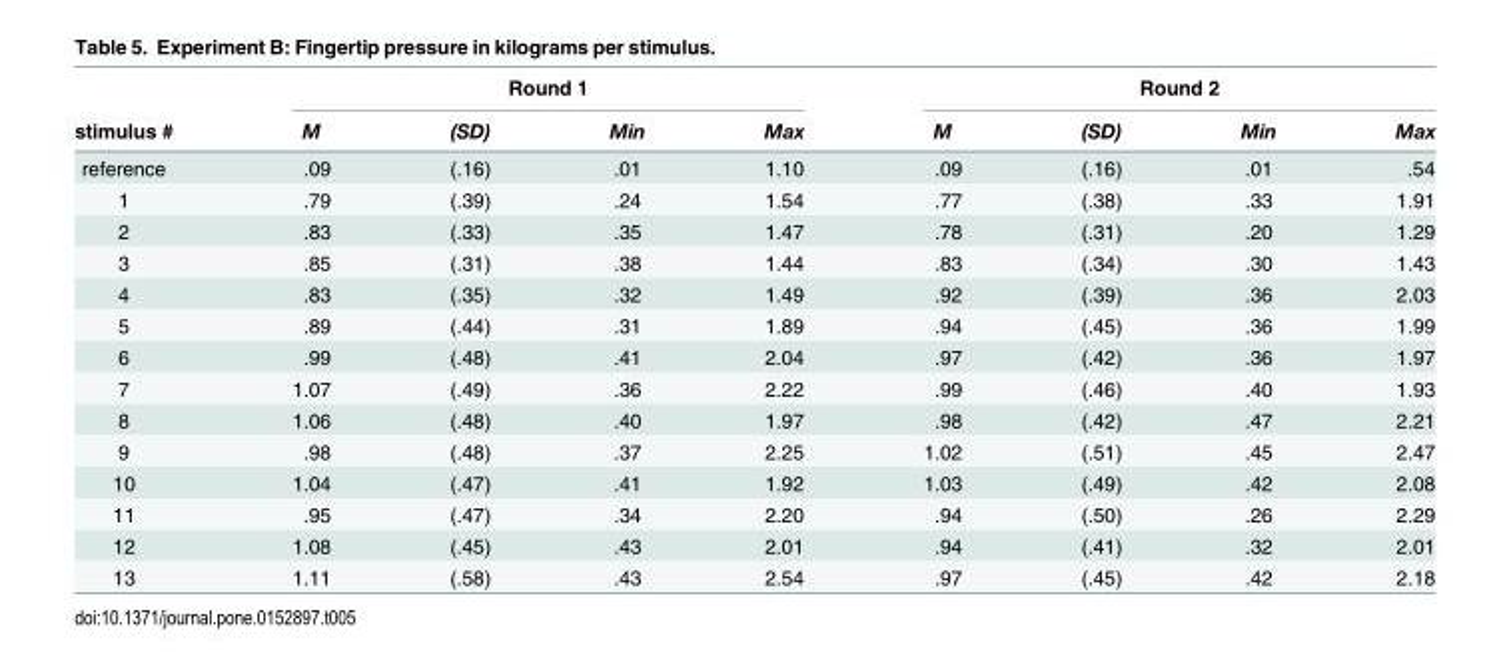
<table><thead><tr><td rowspan="2">stimulus #</td><td colspan="4">Round 1</td><td colspan="4">Round 2</td></tr><tr><td>M</td><td>(SD)</td><td>Min</td><td>Max</td><td>M</td><td>(SD)</td><td>Min</td><td>Max</td></tr></thead><tbody><tr><td>reference</td><td>.09</td><td>(.16)</td><td>.01</td><td>1.10</td><td>.09</td><td>(.16)</td><td>.01</td><td>.54</td></tr><tr><td>1</td><td>.79</td><td>(.39)</td><td>.24</td><td>1.54</td><td>.77</td><td>(.38)</td><td>.33</td><td>1.91</td></tr><tr><td>2</td><td>.83</td><td>(.33)</td><td>.35</td><td>1.47</td><td>.78</td><td>(.31)</td><td>.20</td><td>1.29</td></tr><tr><td>3</td><td>.85</td><td>(.31)</td><td>.38</td><td>1.44</td><td>.83</td><td>(.34)</td><td>.30</td><td>1.43</td></tr><tr><td>4</td><td>.83</td><td>(.35)</td><td>.32</td><td>1.49</td><td>.92</td><td>(.39)</td><td>.36</td><td>2.03</td></tr><tr><td>5</td><td>.89</td><td>(.44)</td><td>.31</td><td>1.89</td><td>.94</td><td>(.45)</td><td>.36</td><td>1.99</td></tr><tr><td>6</td><td>.99</td><td>(.48)</td><td>.41</td><td>2.04</td><td>.97</td><td>(.42)</td><td>.36</td><td>1.97</td></tr><tr><td>7</td><td>1.07</td><td>(.49)</td><td>.36</td><td>2.22</td><td>.99</td><td>(.46)</td><td>.40</td><td>1.93</td></tr><tr><td>8</td><td>1.06</td><td>(.48)</td><td>.40</td><td>1.97</td><td>.98</td><td>(.42)</td><td>.47</td><td>2.21</td></tr><tr><td>9</td><td>.98</td><td>(.48)</td><td>.37</td><td>2.25</td><td>1.02</td><td>(.51)</td><td>.45</td><td>2.47</td></tr><tr><td>10</td><td>1.04</td><td>(.47)</td><td>.41</td><td>1.92</td><td>1.03</td><td>(.49)</td><td>.42</td><td>2.08</td></tr><tr><td>11</td><td>.95</td><td>(.47)</td><td>.34</td><td>2.20</td><td>.94</td><td>(.50)</td><td>.26</td><td>2.29</td></tr><tr><td>12</td><td>1.08</td><td>(.45)</td><td>.43</td><td>2.01</td><td>.94</td><td>(.41)</td><td>.32</td><td>2.01</td></tr><tr><td>13</td><td>1.11</td><td>(.58)</td><td>.43</td><td>2.54</td><td>.97</td><td>(.45)</td><td>.42</td><td>2.18</td></tr></tbody></table>